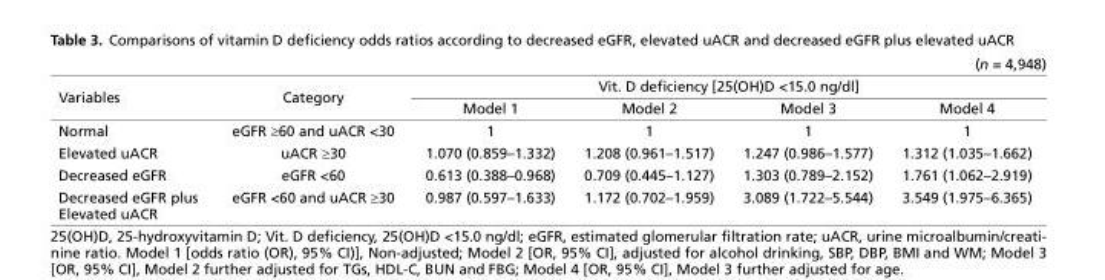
<table><thead><tr><td colspan="6">(n = 4,948)</td></tr><tr><td rowspan="2">Variables</td><td rowspan="2">Category</td><td colspan="4">Vit. D deficiency [25(OH)D &lt;15.0 ng/dl]</td></tr><tr><td>Model 1</td><td>Model 2</td><td>Model 3</td><td>Model 4</td></tr></thead><tbody><tr><td>Normal</td><td>eGFR ≥60 and uACR &lt;30</td><td>1</td><td>1</td><td>1</td><td>1</td></tr><tr><td>Elevated uACR</td><td>uACR ≥30</td><td>1.070 (0.859–1.332)</td><td>1.208 (0.961–1.517)</td><td>1.247 (0.986–1.577)</td><td>1.312 (1.035–1.662)</td></tr><tr><td>Decreased eGFR</td><td>eGFR &lt;60</td><td>0.613 (0.388–0.968)</td><td>0.709 (0.445–1.127)</td><td>1.303 (0.789–2.152)</td><td>1.761 (1.062–2.919)</td></tr><tr><td>Decreased eGFR plus Elevated uACR</td><td>eGFR &lt;60 and uACR ≥30</td><td>0.987 (0.597–1.633)</td><td>1.172 (0.702–1.959)</td><td>3.089 (1.722–5.544)</td><td>3.549 (1.975–6.365)</td></tr></tbody></table>